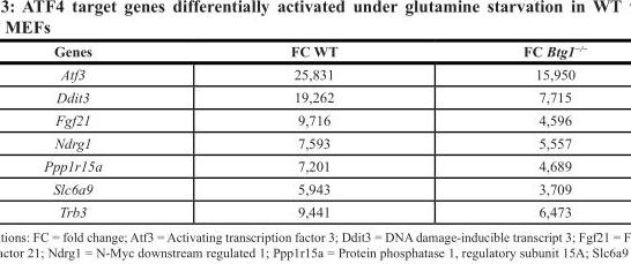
<table><thead><tr><td>Genes</td><td>FC WT</td><td>FC Btg1<sup>−/−</sup></td></tr></thead><tbody><tr><td>Atf3</td><td>25,831</td><td>15,950</td></tr><tr><td>Ddit3</td><td>19,262</td><td>7,715</td></tr><tr><td>Fgf21</td><td>9,716</td><td>4,596</td></tr><tr><td>Ndrg1</td><td>7,593</td><td>5,557</td></tr><tr><td>Ppp1r15a</td><td>7,201</td><td>4,689</td></tr><tr><td>Slc6a9</td><td>5,943</td><td>3,709</td></tr><tr><td>Trb3</td><td>9,441</td><td>6,473</td></tr></tbody></table>